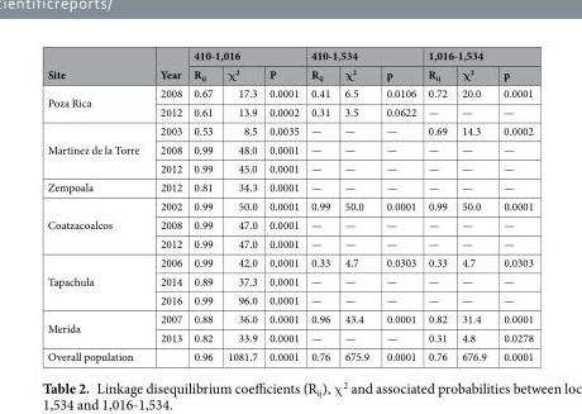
<table><thead><tr><td rowspan="2">Site</td><td rowspan="2">Year</td><td colspan="3">410-1,016</td><td colspan="3">410-1,534</td><td colspan="3">1,016-1,534</td></tr><tr><td>R<sub>ij</sub></td><td>χ<sup>2</sup></td><td>P</td><td>R<sub>ij</sub></td><td>χ<sup>2</sup></td><td>p</td><td>R<sub>ij</sub></td><td>χ<sup>2</sup></td><td>p</td></tr></thead><tbody><tr><td rowspan="2">Poza Rica</td><td>2008</td><td>0.67</td><td>17.3</td><td>0.0001</td><td>0.41</td><td>6.5</td><td>0.0106</td><td>0.72</td><td>20.0</td><td>0.0001</td></tr><tr><td>2012</td><td>0.61</td><td>13.9</td><td>0.0002</td><td>0.31</td><td>3.5</td><td>0.0622</td><td>—</td><td>—</td><td>—</td></tr><tr><td rowspan="3">Martinez de la Torre</td><td>2003</td><td>0.53</td><td>8.5</td><td>0.0035</td><td>—</td><td>—</td><td>—</td><td>0.69</td><td>14.3</td><td>0.0002</td></tr><tr><td>2008</td><td>0.99</td><td>48.0</td><td>0.0001</td><td>—</td><td>—</td><td>—</td><td>—</td><td>—</td><td>—</td></tr><tr><td>2012</td><td>0.99</td><td>45.0</td><td>0.0001</td><td>—</td><td>—</td><td>—</td><td>—</td><td>—</td><td>—</td></tr><tr><td>Zempoala</td><td>2012</td><td>0.81</td><td>34.3</td><td>0.0001</td><td>—</td><td>—</td><td>—</td><td>—</td><td>—</td><td>—</td></tr><tr><td rowspan="3">Coatzacoalcos</td><td>2002</td><td>0.99</td><td>50.0</td><td>0.0001</td><td>0.99</td><td>50.0</td><td>0.0001</td><td>0.99</td><td>50.0</td><td>0.0001</td></tr><tr><td>2008</td><td>0.99</td><td>47.0</td><td>0.0001</td><td>—</td><td>—</td><td>—</td><td>—</td><td>—</td><td>—</td></tr><tr><td>2012</td><td>0.99</td><td>47.0</td><td>0.0001</td><td>—</td><td>—</td><td>—</td><td>—</td><td>—</td><td>—</td></tr><tr><td rowspan="3">Tapachula</td><td>2006</td><td>0.99</td><td>42.0</td><td>0.0001</td><td>0.33</td><td>4.7</td><td>0.0303</td><td>0.33</td><td>4.7</td><td>0.0303</td></tr><tr><td>2014</td><td>0.89</td><td>37.3</td><td>0.0001</td><td>—</td><td>—</td><td>—</td><td>—</td><td>—</td><td>—</td></tr><tr><td>2016</td><td>0.99</td><td>96.0</td><td>0.0001</td><td>—</td><td>—</td><td>—</td><td>—</td><td>—</td><td>—</td></tr><tr><td rowspan="2">Merida</td><td>2007</td><td>0.88</td><td>36.0</td><td>0.0001</td><td>0.96</td><td>43.4</td><td>0.0001</td><td>0.82</td><td>31.4</td><td>0.0001</td></tr><tr><td>2013</td><td>0.82</td><td>33.9</td><td>0.0001</td><td>—</td><td>—</td><td>—</td><td>0.31</td><td>4.8</td><td>0.0278</td></tr><tr><td>Overall population</td><td></td><td>0.96</td><td>1081.7</td><td>0.0001</td><td>0.76</td><td>675.9</td><td>0.0001</td><td>0.76</td><td>676.9</td><td>0.0001</td></tr></tbody></table>